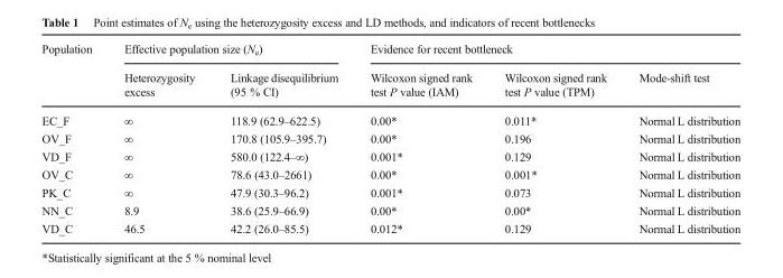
<table><thead><tr><td rowspan="2">Population</td><td colspan="2">Effective population size (N<sub>e</sub>)</td><td colspan="3">Evidence for recent bottleneck</td></tr><tr><td>Heterozygosity excess</td><td>Linkage disequilibrium (95 % CI)</td><td>Wilcoxon signed rank test P value (IAM)</td><td>Wilcoxon signed rank test P value (TPM)</td><td>Mode-shift test</td></tr></thead><tbody><tr><td>EC_F</td><td>∞</td><td>118.9 (62.9–622.5)</td><td>0.00*</td><td>0.011*</td><td>Normal L distribution</td></tr><tr><td>OV_F</td><td>∞</td><td>170.8 (105.9–395.7)</td><td>0.00*</td><td>0.196</td><td>Normal L distribution</td></tr><tr><td>VD_F</td><td>∞</td><td>580.0 (122.4–∞)</td><td>0.001*</td><td>0.129</td><td>Normal L distribution</td></tr><tr><td>OV_C</td><td>∞</td><td>78.6 (43.0–2661)</td><td>0.00*</td><td>0.001*</td><td>Normal L distribution</td></tr><tr><td>PK_C</td><td>∞</td><td>47.9 (30.3–96.2)</td><td>0.001*</td><td>0.073</td><td>Normal L distribution</td></tr><tr><td>NN_C</td><td>8.9</td><td>38.6 (25.9–66.9)</td><td>0.00*</td><td>0.00*</td><td>Normal L distribution</td></tr><tr><td>VD_C</td><td>46.5</td><td>42.2 (26.0–85.5)</td><td>0.012*</td><td>0.129</td><td>Normal L distribution</td></tr></tbody></table>